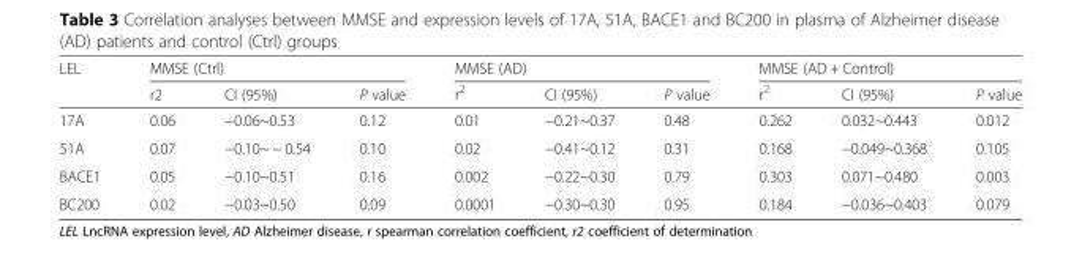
<table><thead><tr><td rowspan="2">LEL</td><td colspan="3">MMSE (Ctrl)</td><td colspan="3">MMSE (AD)</td><td colspan="3">MMSE (AD + Control)</td></tr><tr><td>r2</td><td>CI (95%)</td><td>P value</td><td>r<sup>2</sup></td><td>CI (95%)</td><td>P value</td><td>r<sup>2</sup></td><td>CI (95%)</td><td>P value</td></tr></thead><tbody><tr><td>17A</td><td>0.06</td><td>−0.06~0.53</td><td>0.12</td><td>0.01</td><td>−0.21~0.37</td><td>0.48</td><td>0.262</td><td>0.032~0.443</td><td>0.012</td></tr><tr><td>51A</td><td>0.07</td><td>−0.10~ − 0.54</td><td>0.10</td><td>0.02</td><td>−0.41~0.12</td><td>0.31</td><td>0.168</td><td>−0.049~0.368</td><td>0.105</td></tr><tr><td>BACE1</td><td>0.05</td><td>−0.10~0.51</td><td>0.16</td><td>0.002</td><td>−0.22~0.30</td><td>0.79</td><td>0.303</td><td>0.071~0.480</td><td>0.003</td></tr><tr><td>BC200</td><td>0.02</td><td>−0.03~0.50</td><td>0.09</td><td>0.0001</td><td>−0.30~0.30</td><td>0.95</td><td>0.184</td><td>−0.036~0.403</td><td>0.079</td></tr></tbody></table>